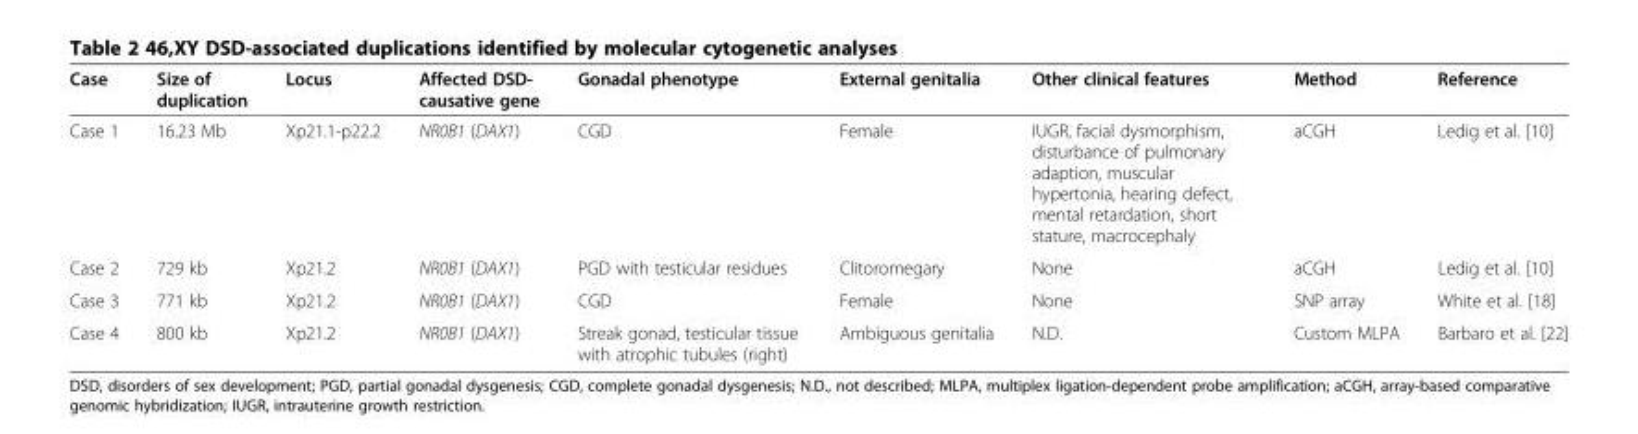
<table><thead><tr><td>Case</td><td>Size of duplication</td><td>Locus</td><td>Affected DSD- causative gene</td><td>Gonadal phenotype</td><td>External genitalia</td><td>Other clinical features</td><td>Method</td><td>Reference</td></tr></thead><tbody><tr><td>Case 1</td><td>16.23 Mb</td><td>Xp21.1-p22.2</td><td>NR0B1 (DAX1)</td><td>CGD</td><td>Female</td><td>IUGR, facial dysmorphism, disturbance of pulmonary adaption, muscular hypertonia, hearing defect, mental retardation, short stature, macrocephaly</td><td>aCGH</td><td>Ledig et al. [10]</td></tr><tr><td>Case 2</td><td>729 kb</td><td>Xp21.2</td><td>NR0B1 (DAX1)</td><td>PGD with testicular residues</td><td>Clitoromegary</td><td>None</td><td>aCGH</td><td>Ledig et al. [10]</td></tr><tr><td>Case 3</td><td>771 kb</td><td>Xp21.2</td><td>NR0B1 (DAX1)</td><td>CGD</td><td>Female</td><td>None</td><td>SNP array</td><td>White et al. [18]</td></tr><tr><td>Case 4</td><td>800 kb</td><td>Xp21.2</td><td>NR0B1 (DAX1)</td><td>Streak gonad, testicular tissue with atrophic tubules (right)</td><td>Ambiguous genitalia</td><td>N.D.</td><td>Custom MLPA</td><td>Barbaro et al. [22]</td></tr></tbody></table>